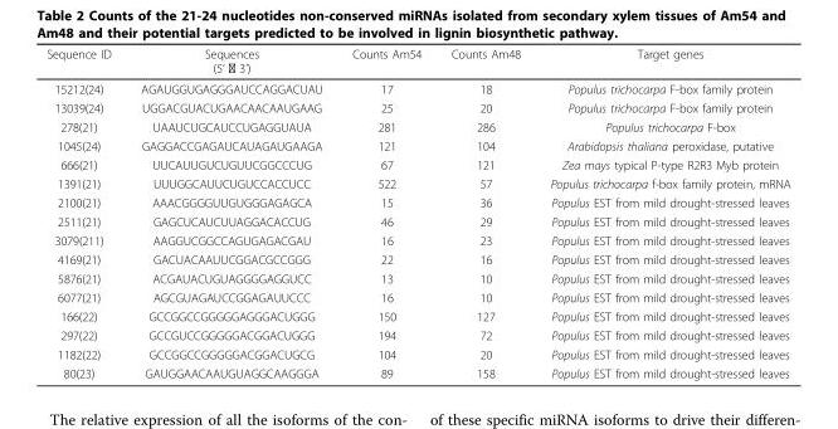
<table><thead><tr><td>Sequence ID</td><td>Sequences (5’ ➙ 3’)</td><td>Counts Am54</td><td>Counts Am48</td><td>Target genes</td></tr></thead><tbody><tr><td>15212(24)</td><td>AGAUGGUGAGGGAUCCAGGACUAU</td><td>17</td><td>18</td><td>Populus trichocarpa F-box family protein</td></tr><tr><td>13039(24)</td><td>UGGACGUACUGAACAACAAUGAAG</td><td>25</td><td>20</td><td>Populus trichocarpa F-box family protein</td></tr><tr><td>278(21)</td><td>UAAUCUGCAUCCUGAGGUAUA</td><td>281</td><td>286</td><td>Populus trichocarpa F-box</td></tr><tr><td>1045(24)</td><td>GAGGACCGAGAUCAUAGAUGAAGA</td><td>121</td><td>104</td><td>Arabidopsis thaliana peroxidase, putative</td></tr><tr><td>666(21)</td><td>UUCAUUGUCUGUUCGGCCCUG</td><td>67</td><td>121</td><td>Zea mays typical P-type R2R3 Myb protein</td></tr><tr><td>1391(21)</td><td>UUUGGCAUUCUGUCCACCUCC</td><td>522</td><td>57</td><td>Populus trichocarpa f-box family protein, mRNA</td></tr><tr><td>2100(21)</td><td>AAACGGGGUUGUGGGAGAGCA</td><td>15</td><td>36</td><td>Populus EST from mild drought-stressed leaves</td></tr><tr><td>2511(21)</td><td>GAGCUCAUCUUAGGACACCUG</td><td>46</td><td>29</td><td>Populus EST from mild drought-stressed leaves</td></tr><tr><td>3079(211)</td><td>AAGGUCGGCCAGUGAGACGAU</td><td>16</td><td>23</td><td>Populus EST from mild drought-stressed leaves</td></tr><tr><td>4169(21)</td><td>GACUACAAUUCGGACGCCGGG</td><td>22</td><td>16</td><td>Populus EST from mild drought-stressed leaves</td></tr><tr><td>5876(21)</td><td>ACGAUACUGUAGGGGAGGUCC</td><td>13</td><td>10</td><td>Populus EST from mild drought-stressed leaves</td></tr><tr><td>6077(21)</td><td>AGCGUAGAUCCGGAGAUUCCC</td><td>16</td><td>10</td><td>Populus EST from mild drought-stressed leaves</td></tr><tr><td>166(22)</td><td>GCCGGCCGGGGGAGGGACUGGG</td><td>150</td><td>127</td><td>Populus EST from mild drought-stressed leaves</td></tr><tr><td>297(22)</td><td>GCCGUCCGGGGGACGGACUGGG</td><td>194</td><td>72</td><td>Populus EST from mild drought-stressed leaves</td></tr><tr><td>1182(22)</td><td>GCCGGCCGGGGGACGGACUGCG</td><td>104</td><td>20</td><td>Populus EST from mild drought-stressed leaves</td></tr><tr><td>80(23)</td><td>GAUGGAACAAUGUAGGCAAGGGA</td><td>89</td><td>158</td><td>Populus EST from mild drought-stressed leaves</td></tr></tbody></table>